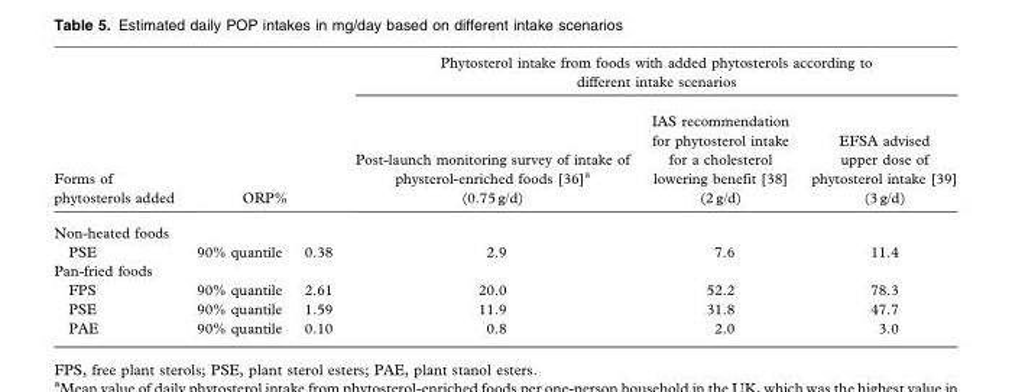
<table><thead><tr><td rowspan="2">Forms of phytosterols added</td><td></td><td></td><td colspan="3">Phytosterol intake from foods with added phytosterols according to different intake scenarios</td></tr><tr><td colspan="2">ORP%</td><td>Post-launch monitoring survey of intake of physterol-enriched foods [36]<sup>a</sup> (0.75 g/d)</td><td>IAS recommendation for phytosterol intake for a cholesterol lowering benefit [38] (2 g/d)</td><td>EFSA advised upper dose of phytosterol intake [39] (3 g/d)</td></tr></thead><tbody><tr><td colspan="6">Non-heated foods</td></tr><tr><td>PSE</td><td>90% quantile</td><td>0.38</td><td>2.9</td><td>7.6</td><td>11.4</td></tr><tr><td colspan="6">Pan-fried foods</td></tr><tr><td>FPS</td><td>90% quantile</td><td>2.61</td><td>20.0</td><td>52.2</td><td>78.3</td></tr><tr><td>PSE</td><td>90% quantile</td><td>1.59</td><td>11.9</td><td>31.8</td><td>47.7</td></tr><tr><td>PAE</td><td>90% quantile</td><td>0.10</td><td>0.8</td><td>2.0</td><td>3.0</td></tr></tbody></table>